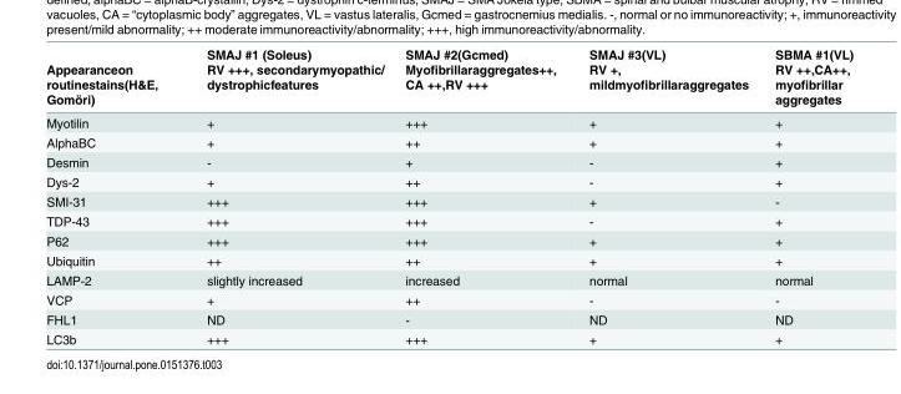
<table><thead><tr><td rowspan="2">Appearanceon routinestains(H&amp;E, Gomöri)</td><td rowspan="2">SMAJ #1 (Soleus) RV +++, secondarymyopathic/ dystrophicfeatures</td><td rowspan="2">SMAJ #2(Gcmed) Myofibrillaraggregates++, CA ++,RV +++</td><td rowspan="2">SMAJ #3(VL) RV +, mildmyofibrillaraggregates</td><td rowspan="2">SBMA #1(VL) RV ++,CA++, myofibrillar aggregates</td></tr><tr></tr></thead><tbody><tr><td>Myotilin</td><td>+</td><td>+++</td><td>+</td><td>+</td></tr><tr><td>AlphaBC</td><td>+</td><td>++</td><td>+</td><td>+</td></tr><tr><td>Desmin</td><td>-</td><td>+</td><td>-</td><td>+</td></tr><tr><td>Dys-2</td><td>+</td><td>++</td><td>-</td><td>+</td></tr><tr><td>SMI-31</td><td>+++</td><td>+++</td><td>+</td><td>-</td></tr><tr><td>TDP-43</td><td>+++</td><td>+++</td><td>-</td><td>+</td></tr><tr><td>P62</td><td>+++</td><td>+++</td><td>+</td><td>+</td></tr><tr><td>Ubiquitin</td><td>++</td><td>++</td><td>+</td><td>+</td></tr><tr><td>LAMP-2</td><td>slightly increased</td><td>increased</td><td>normal</td><td>normal</td></tr><tr><td>VCP</td><td>+</td><td>++</td><td>-</td><td>-</td></tr><tr><td>FHL1</td><td>ND</td><td>-</td><td>ND</td><td>ND</td></tr><tr><td>LC3b</td><td>+++</td><td>+++</td><td>+</td><td>+</td></tr></tbody></table>